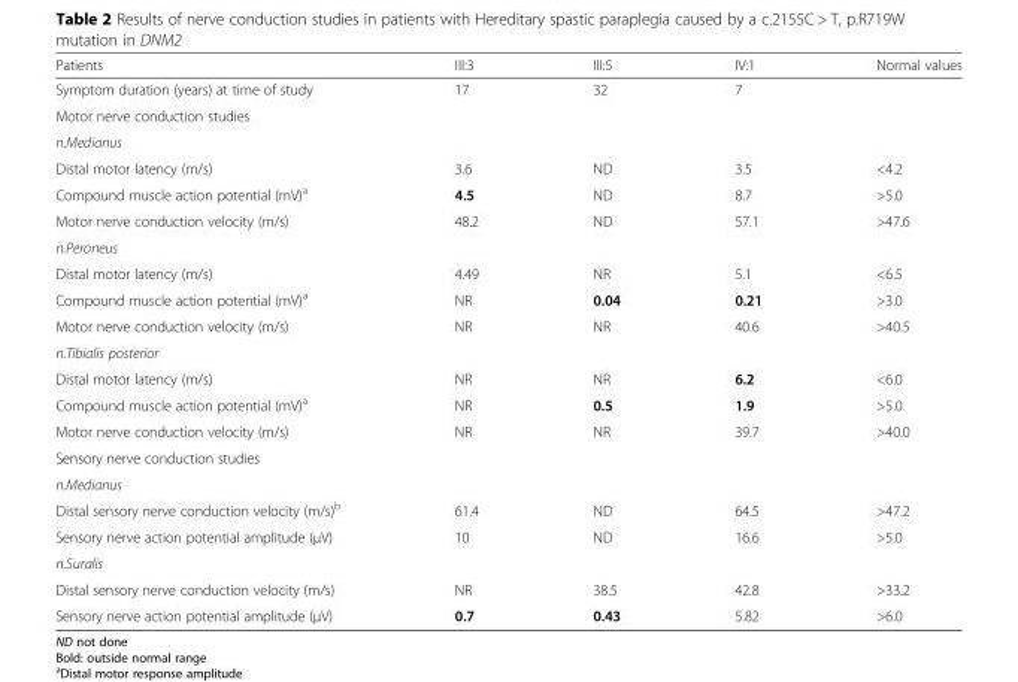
<table><thead><tr><td>Patients</td><td>III:3</td><td>III:5</td><td>IV:1</td><td>Normal values</td></tr></thead><tbody><tr><td>Symptom duration (years) at time of study</td><td>17</td><td>32</td><td>7</td><td></td></tr><tr><td colspan="5">Motor nerve conduction studies</td></tr><tr><td colspan="5">n.Medianus</td></tr><tr><td>Distal motor latency (m/s)</td><td>3.6</td><td>ND</td><td>3.5</td><td>&lt;4.2</td></tr><tr><td>Compound muscle action potential (mV)<sup>a</sup></td><td>4.5</td><td>ND</td><td>8.7</td><td>&gt;5.0</td></tr><tr><td>Motor nerve conduction velocity (m/s)</td><td>48.2</td><td>ND</td><td>57.1</td><td>&gt;47.6</td></tr><tr><td colspan="5">n.Peroneus</td></tr><tr><td>Distal motor latency (m/s)</td><td>4.49</td><td>NR</td><td>5.1</td><td>&lt;6.5</td></tr><tr><td>Compound muscle action potential (mV)<sup>a</sup></td><td>NR</td><td>0.04</td><td>0.21</td><td>&gt;3.0</td></tr><tr><td>Motor nerve conduction velocity (m/s)</td><td>NR</td><td>NR</td><td>40.6</td><td>&gt;40.5</td></tr><tr><td colspan="5">n.Tibialis posterior</td></tr><tr><td>Distal motor latency (m/s)</td><td>NR</td><td>NR</td><td>6.2</td><td>&lt;6.0</td></tr><tr><td>Compound muscle action potential (mV)<sup>a</sup></td><td>NR</td><td>0.5</td><td>1.9</td><td>&gt;5.0</td></tr><tr><td>Motor nerve conduction velocity (m/s)</td><td>NR</td><td>NR</td><td>39.7</td><td>&gt;40.0</td></tr><tr><td colspan="5">Sensory nerve conduction studies</td></tr><tr><td colspan="5">n.Medianus</td></tr><tr><td>Distal sensory nerve conduction velocity (m/s)<sup>b</sup></td><td>61.4</td><td>ND</td><td>64.5</td><td>&gt;47.2</td></tr><tr><td>Sensory nerve action potential amplitude (μV)</td><td>10</td><td>ND</td><td>16.6</td><td>&gt;5.0</td></tr><tr><td colspan="5">n.Suralis</td></tr><tr><td>Distal sensory nerve conduction velocity (m/s)</td><td>NR</td><td>38.5</td><td>42.8</td><td>&gt;33.2</td></tr><tr><td>Sensory nerve action potential amplitude (μV)</td><td>0.7</td><td>0.43</td><td>5.82</td><td>&gt;6.0</td></tr></tbody></table>